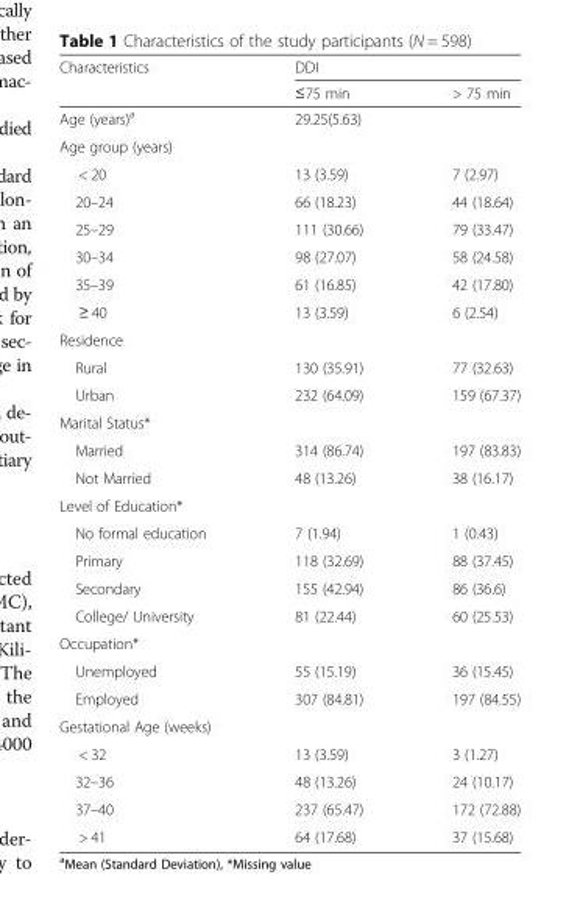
<table><thead><tr><td rowspan="2">Characteristics</td><td colspan="2">DDI</td></tr><tr><td>≤75 min</td><td>&gt; 75 min</td></tr></thead><tbody><tr><td>Age (years)<sup>a</sup></td><td>29.25(5.63)</td><td></td></tr><tr><td colspan="3">Age group (years)</td></tr><tr><td>&lt; 20</td><td>13 (3.59)</td><td>7 (2.97)</td></tr><tr><td>20–24</td><td>66 (18.23)</td><td>44 (18.64)</td></tr><tr><td>25–29</td><td>111 (30.66)</td><td>79 (33.47)</td></tr><tr><td>30–34</td><td>98 (27.07)</td><td>58 (24.58)</td></tr><tr><td>35–39</td><td>61 (16.85)</td><td>42 (17.80)</td></tr><tr><td>≥ 40</td><td>13 (3.59)</td><td>6 (2.54)</td></tr><tr><td colspan="3">Residence</td></tr><tr><td>Rural</td><td>130 (35.91)</td><td>77 (32.63)</td></tr><tr><td>Urban</td><td>232 (64.09)</td><td>159 (67.37)</td></tr><tr><td colspan="3">Marital Status*</td></tr><tr><td>Married</td><td>314 (86.74)</td><td>197 (83.83)</td></tr><tr><td>Not Married</td><td>48 (13.26)</td><td>38 (16.17)</td></tr><tr><td colspan="3">Level of Education*</td></tr><tr><td>No formal education</td><td>7 (1.94)</td><td>1 (0.43)</td></tr><tr><td>Primary</td><td>118 (32.69)</td><td>88 (37.45)</td></tr><tr><td>Secondary</td><td>155 (42.94)</td><td>86 (36.6)</td></tr><tr><td>College/ University</td><td>81 (22.44)</td><td>60 (25.53)</td></tr><tr><td colspan="3">Occupation*</td></tr><tr><td>Unemployed</td><td>55 (15.19)</td><td>36 (15.45)</td></tr><tr><td>Employed</td><td>307 (84.81)</td><td>197 (84.55)</td></tr><tr><td colspan="3">Gestational Age (weeks)</td></tr><tr><td>&lt; 32</td><td>13 (3.59)</td><td>3 (1.27)</td></tr><tr><td>32–36</td><td>48 (13.26)</td><td>24 (10.17)</td></tr><tr><td>37–40</td><td>237 (65.47)</td><td>172 (72.88)</td></tr><tr><td>&gt; 41</td><td>64 (17.68)</td><td>37 (15.68)</td></tr></tbody></table>